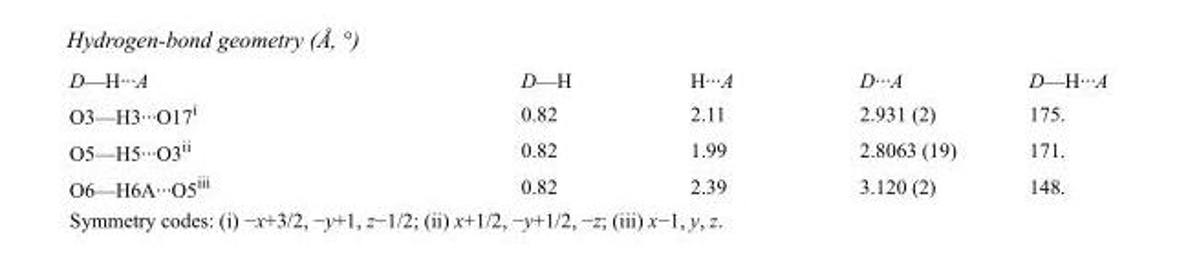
<table><tbody><tr><td>D—H···A</td><td>D—H</td><td>H···A</td><td>D···A</td><td>D—H···A</td></tr><tr><td>O3—H3···O17<sup>i</sup></td><td>0.82</td><td>2.11</td><td>2.931 (2)</td><td>175.</td></tr><tr><td>O5—H5···O3<sup>ii</sup></td><td>0.82</td><td>1.99</td><td>2.8063 (19)</td><td>171.</td></tr><tr><td>O6—H6A···O5<sup>iii</sup></td><td>0.82</td><td>2.39</td><td>3.120 (2)</td><td>148.</td></tr></tbody></table>